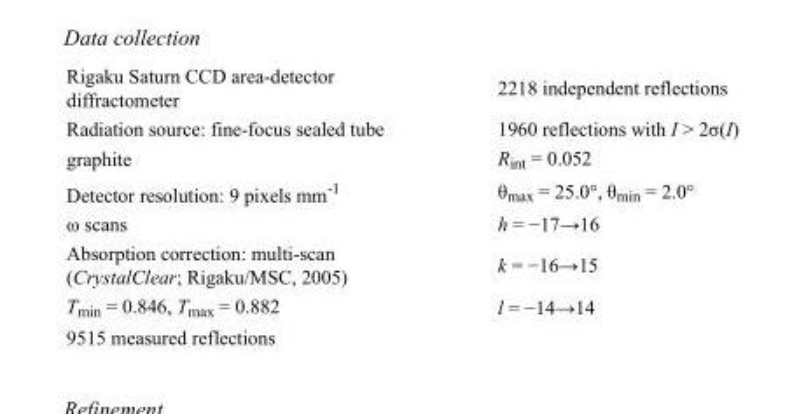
<table><tbody><tr><td>Rigaku Saturn CCD area-detector diffractometer</td><td>2218 independent reflections</td></tr><tr><td>Radiation source: fine-focus sealed tube</td><td>1960 reflections with I &gt; 2σ(I)</td></tr><tr><td>graphite</td><td>R<sub>int</sub> = 0.052</td></tr><tr><td>Detector resolution: 9 pixels mm<sup>-1</sup></td><td>θ<sub>max</sub> = 25.0°, θ<sub>min</sub> = 2.0°</td></tr><tr><td>ω scans</td><td>h = −17→16</td></tr><tr><td>Absorption correction: multi-scan (CrystalClear; Rigaku/MSC, 2005)</td><td>k = −16→15</td></tr><tr><td>T<sub>min</sub> = 0.846, T<sub>max</sub> = 0.882</td><td>l = −14→14</td></tr><tr><td>9515 measured reflections</td><td></td></tr></tbody></table>